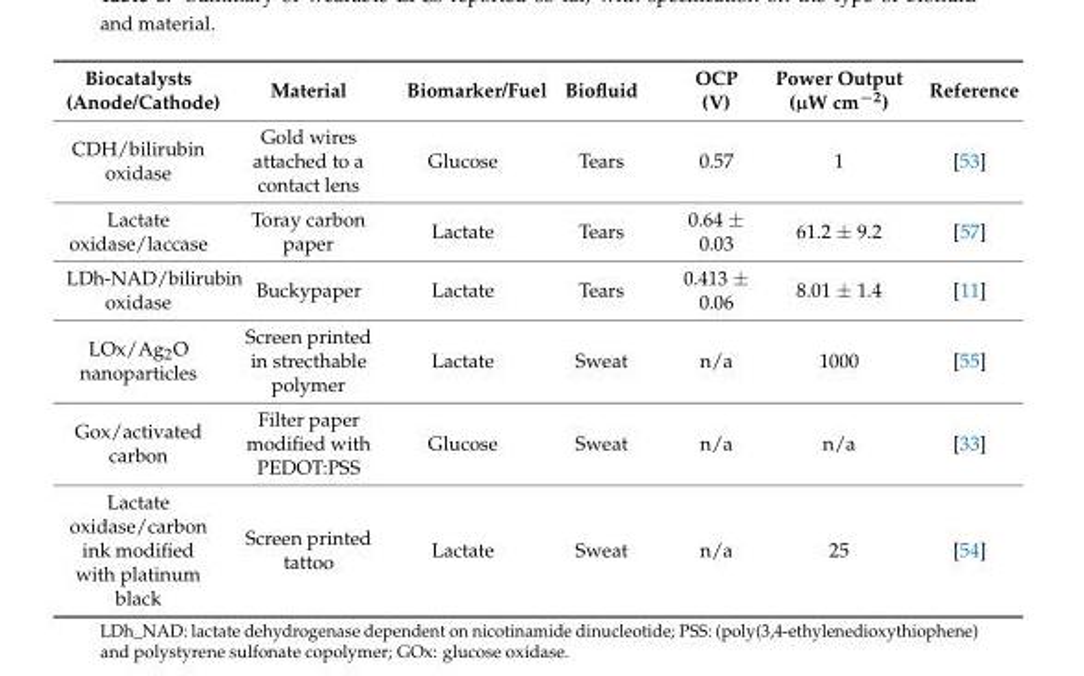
<table><thead><tr><td>Biocatalysts (Anode/Cathode)</td><td>Material</td><td>Biomarker/Fuel</td><td>Biofluid</td><td>OCP (V)</td><td>Power Output (µW cm<sup>−2</sup>)</td><td>Reference</td></tr></thead><tbody><tr><td>CDH/bilirubin oxidase</td><td>Gold wires attached to a contact lens</td><td>Glucose</td><td>Tears</td><td>0.57</td><td>1</td><td>[53]</td></tr><tr><td>Lactate oxidase/laccase</td><td>Toray carbon paper</td><td>Lactate</td><td>Tears</td><td>0.64 ± 0.03</td><td>61.2 ± 9.2</td><td>[57]</td></tr><tr><td>LDh-NAD/bilirubin oxidase</td><td>Buckypaper</td><td>Lactate</td><td>Tears</td><td>0.413 ± 0.06</td><td>8.01 ± 1.4</td><td>[11]</td></tr><tr><td>LOx/Ag<sub>2</sub>O nanoparticles</td><td>Screen printed in strecthable polymer</td><td>Lactate</td><td>Sweat</td><td>n/a</td><td>1000</td><td>[55]</td></tr><tr><td>Gox/activated carbon</td><td>Filter paper modified with PEDOT:PSS</td><td>Glucose</td><td>Sweat</td><td>n/a</td><td>n/a</td><td>[33]</td></tr><tr><td>Lactate oxidase/carbon ink modified with platinum black</td><td>Screen printed tattoo</td><td>Lactate</td><td>Sweat</td><td>n/a</td><td>25</td><td>[54]</td></tr></tbody></table>